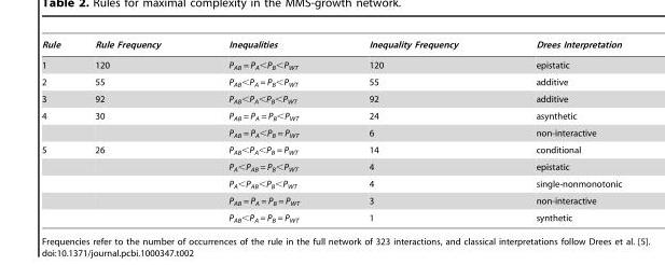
<table><thead><tr><td>Rule</td><td>Rule Frequency</td><td>Inequalities</td><td>Inequality Frequency</td><td>Drees Interpretation</td></tr></thead><tbody><tr><td>1</td><td>120</td><td>P<sub>AB</sub> = P<sub>A</sub>&lt;P<sub>B</sub>&lt;P<sub>WT</sub></td><td>120</td><td>epistatic</td></tr><tr><td>2</td><td>55</td><td>P<sub>AB</sub>&lt;P<sub>A</sub> = P<sub>B</sub>&lt;P<sub>WT</sub></td><td>55</td><td>additive</td></tr><tr><td>3</td><td>92</td><td>P<sub>AB</sub>&lt;P<sub>A</sub>&lt;P<sub>B</sub>&lt;P<sub>WT</sub></td><td>92</td><td>additive</td></tr><tr><td rowspan="2">4</td><td>30</td><td>P<sub>AB</sub> = P<sub>A</sub> = P<sub>B</sub>&lt;P<sub>WT</sub></td><td>24</td><td>asynthetic</td></tr><tr><td></td><td>P<sub>AB</sub> = P<sub>A</sub>&lt;P<sub>B</sub> = P<sub>WT</sub></td><td>6</td><td>non-interactive</td></tr><tr><td rowspan="5">5</td><td>26</td><td>P<sub>AB</sub>&lt;P<sub>A</sub>&lt;P<sub>B</sub> = P<sub>WT</sub></td><td>14</td><td>conditional</td></tr><tr><td></td><td>P<sub>A</sub>&lt;P<sub>AB</sub> = P<sub>B</sub>&lt;P<sub>WT</sub></td><td>4</td><td>epistatic</td></tr><tr><td></td><td>P<sub>A</sub>&lt;P<sub>AB</sub>&lt;P<sub>B</sub>&lt;P<sub>WT</sub></td><td>4</td><td>single-nonmonotonic</td></tr><tr><td></td><td>P<sub>AB</sub> = P<sub>A</sub> = P<sub>B</sub> = P<sub>WT</sub></td><td>3</td><td>non-interactive</td></tr><tr><td></td><td>P<sub>AB</sub>&lt;P<sub>A</sub> = P<sub>B</sub> = P<sub>WT</sub></td><td>1</td><td>synthetic</td></tr></tbody></table>